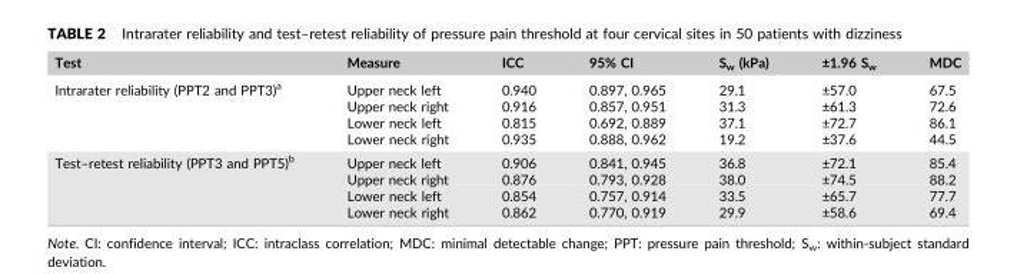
<table><thead><tr><td>Test</td><td>Measure</td><td>ICC</td><td>95% CI</td><td>S<sub>w</sub> (kPa)</td><td>±1.96 S<sub>w</sub></td><td>MDC</td></tr></thead><tbody><tr><td rowspan="4">Intrarater reliability (PPT2 and PPT3)<sup>a</sup></td><td>Upper neck left</td><td>0.940</td><td>0.897, 0.965</td><td>29.1</td><td>±57.0</td><td>67.5</td></tr><tr><td>Upper neck right</td><td>0.916</td><td>0.857, 0.951</td><td>31.3</td><td>±61.3</td><td>72.6</td></tr><tr><td>Lower neck left</td><td>0.815</td><td>0.692, 0.889</td><td>37.1</td><td>±72.7</td><td>86.1</td></tr><tr><td>Lower neck right</td><td>0.935</td><td>0.888, 0.962</td><td>19.2</td><td>±37.6</td><td>44.5</td></tr><tr><td rowspan="4">Test–retest reliability (PPT3 and PPT5)<sup>b</sup></td><td>Upper neck left</td><td>0.906</td><td>0.841, 0.945</td><td>36.8</td><td>±72.1</td><td>85.4</td></tr><tr><td>Upper neck right</td><td>0.876</td><td>0.793, 0.928</td><td>38.0</td><td>±74.5</td><td>88.2</td></tr><tr><td>Lower neck left</td><td>0.854</td><td>0.757, 0.914</td><td>33.5</td><td>±65.7</td><td>77.7</td></tr><tr><td>Lower neck right</td><td>0.862</td><td>0.770, 0.919</td><td>29.9</td><td>±58.6</td><td>69.4</td></tr></tbody></table>